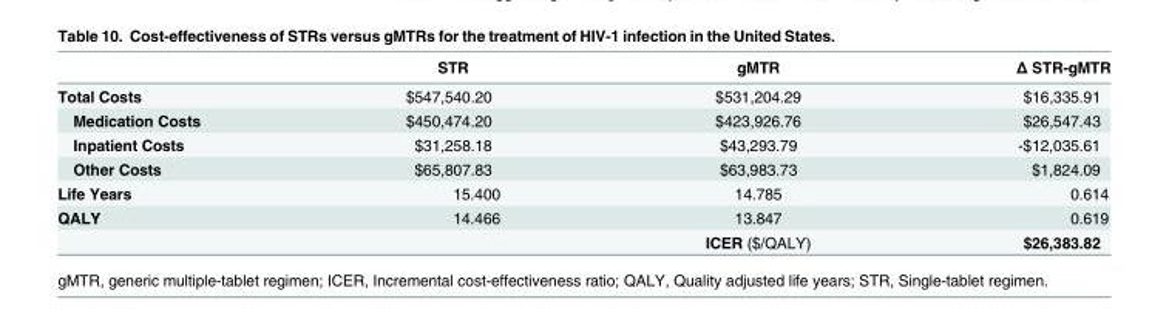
<table><thead><tr><td></td><td>STR</td><td>gMTR</td><td>Δ STR-gMTR</td></tr></thead><tbody><tr><td>Total Costs</td><td>$547,540.20</td><td>$531,204.29</td><td>$16,335.91</td></tr><tr><td>Medication Costs</td><td>$450,474.20</td><td>$423,926.76</td><td>$26,547.43</td></tr><tr><td>Inpatient Costs</td><td>$31,258.18</td><td>$43,293.79</td><td>-$12,035.61</td></tr><tr><td>Other Costs</td><td>$65,807.83</td><td>$63,983.73</td><td>$1,824.09</td></tr><tr><td>Life Years</td><td>15.400</td><td>14.785</td><td>0.614</td></tr><tr><td rowspan="2">QALY</td><td>14.466</td><td>13.847</td><td>0.619</td></tr><tr><td></td><td>ICER ($/QALY)</td><td>$26,383.82</td></tr></tbody></table>